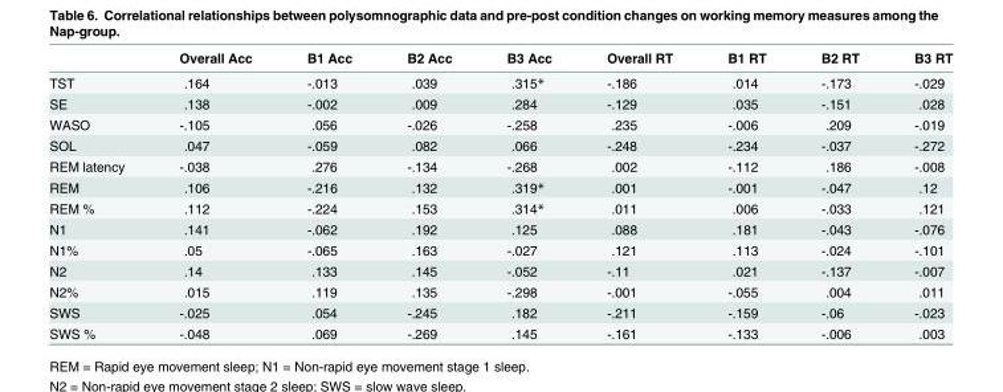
<table><thead><tr><td></td><td>Overall Acc</td><td>B1 Acc</td><td>B2 Acc</td><td>B3 Acc</td><td>Overall RT</td><td>B1 RT</td><td>B2 RT</td><td>B3 RT</td></tr></thead><tbody><tr><td>TST</td><td>.164</td><td>-.013</td><td>.039</td><td>.315*</td><td>-.186</td><td>.014</td><td>-.173</td><td>-.029</td></tr><tr><td>SE</td><td>.138</td><td>-.002</td><td>.009</td><td>.284</td><td>-.129</td><td>.035</td><td>-.151</td><td>.028</td></tr><tr><td>WASO</td><td>-.105</td><td>.056</td><td>-.026</td><td>-.258</td><td>.235</td><td>-.006</td><td>.209</td><td>-.019</td></tr><tr><td>SOL</td><td>.047</td><td>-.059</td><td>.082</td><td>.066</td><td>-.248</td><td>-.234</td><td>-.037</td><td>-.272</td></tr><tr><td>REM latency</td><td>-.038</td><td>.276</td><td>-.134</td><td>-.268</td><td>.002</td><td>-.112</td><td>.186</td><td>-.008</td></tr><tr><td>REM</td><td>.106</td><td>-.216</td><td>.132</td><td>.319*</td><td>.001</td><td>-.001</td><td>-.047</td><td>.12</td></tr><tr><td>REM %</td><td>.112</td><td>-.224</td><td>.153</td><td>.314*</td><td>.011</td><td>.006</td><td>-.033</td><td>.121</td></tr><tr><td>N1</td><td>.141</td><td>-.062</td><td>.192</td><td>.125</td><td>.088</td><td>.181</td><td>-.043</td><td>-.076</td></tr><tr><td>N1%</td><td>.05</td><td>-.065</td><td>.163</td><td>-.027</td><td>.121</td><td>.113</td><td>-.024</td><td>-.101</td></tr><tr><td>N2</td><td>.14</td><td>.133</td><td>.145</td><td>-.052</td><td>-.11</td><td>.021</td><td>-.137</td><td>-.007</td></tr><tr><td>N2%</td><td>.015</td><td>.119</td><td>.135</td><td>-.298</td><td>-.001</td><td>-.055</td><td>.004</td><td>.011</td></tr><tr><td>SWS</td><td>-.025</td><td>.054</td><td>-.245</td><td>.182</td><td>-.211</td><td>-.159</td><td>-.06</td><td>-.023</td></tr><tr><td>SWS %</td><td>-.048</td><td>.069</td><td>-.269</td><td>.145</td><td>-.161</td><td>-.133</td><td>-.006</td><td>.003</td></tr></tbody></table>